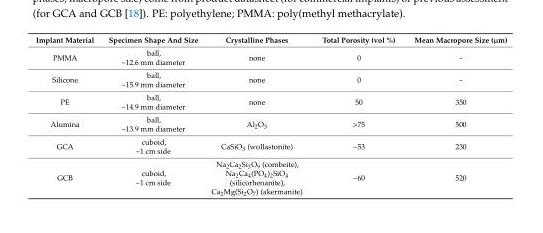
<table><thead><tr><td>Implant Material</td><td>Specimen Shape And Size</td><td>Crystalline Phases</td><td>Total Porosity (vol %)</td><td>Mean Macropore Size (µm)</td></tr></thead><tbody><tr><td>PMMA</td><td>ball, ~12.6 mm diameter</td><td>none</td><td>0</td><td>-</td></tr><tr><td>Silicone</td><td>ball, ~15.9 mm diameter</td><td>none</td><td>0</td><td>-</td></tr><tr><td>PE</td><td>ball, ~14.9 mm diameter</td><td>none</td><td>50</td><td>350</td></tr><tr><td>Alumina</td><td>ball, ~13.9 mm diameter</td><td>Al<sub>2</sub>O<sub>3</sub></td><td>&gt;75</td><td>500</td></tr><tr><td>GCA</td><td>cuboid, ~1 cm side</td><td>CaSiO<sub>3</sub> (wollastonite)</td><td>~53</td><td>230</td></tr><tr><td>GCB</td><td>cuboid, ~1 cm side</td><td>Na<sub>2</sub>Ca<sub>2</sub>Si<sub>3</sub>O<sub>9</sub> (combeite), Na<sub>2</sub>Ca<sub>4</sub>(PO<sub>4</sub>)<sub>2</sub>SiO<sub>4</sub> (silicorhenanite), Ca<sub>2</sub>Mg(Si<sub>2</sub>O<sub>7</sub>) (akermanite)</td><td>~60</td><td>520</td></tr></tbody></table>